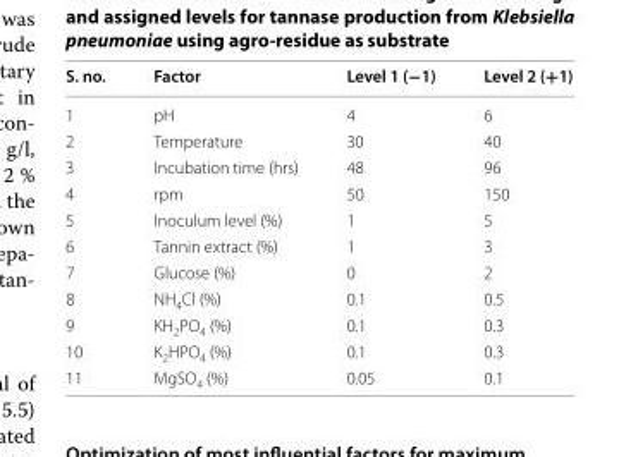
<table><thead><tr><td>S. no.</td><td>Factor</td><td>Level 1 (−1)</td><td>Level 2 (+1)</td></tr></thead><tbody><tr><td>1</td><td>pH</td><td>4</td><td>6</td></tr><tr><td>2</td><td>Temperature</td><td>30</td><td>40</td></tr><tr><td>3</td><td>Incubation time (hrs)</td><td>48</td><td>96</td></tr><tr><td>4</td><td>rpm</td><td>50</td><td>150</td></tr><tr><td>5</td><td>Inoculum level (%)</td><td>1</td><td>5</td></tr><tr><td>6</td><td>Tannin extract (%)</td><td>1</td><td>3</td></tr><tr><td>7</td><td>Glucose (%)</td><td>0</td><td>2</td></tr><tr><td>8</td><td>NH<sub>4</sub>Cl (%)</td><td>0.1</td><td>0.5</td></tr><tr><td>9</td><td>KH<sub>2</sub>PO<sub>4</sub> (%)</td><td>0.1</td><td>0.3</td></tr><tr><td>10</td><td>K<sub>2</sub>HPO<sub>4</sub> (%)</td><td>0.1</td><td>0.3</td></tr><tr><td>11</td><td>MgSO<sub>4</sub> (%)</td><td>0.05</td><td>0.1</td></tr></tbody></table>